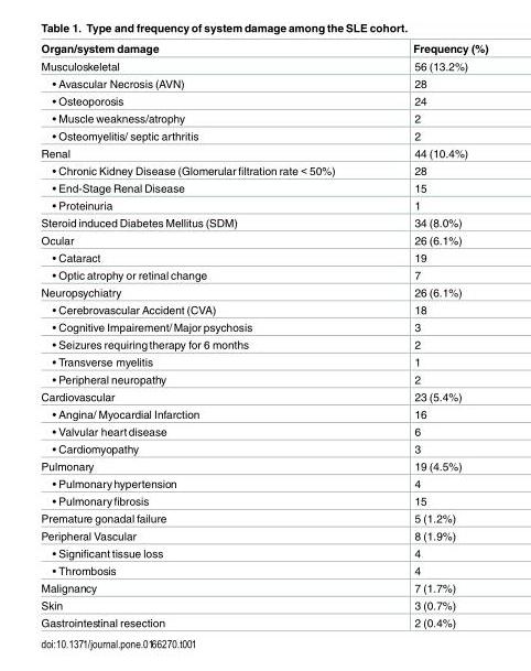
<table><thead><tr><td>Organ/system damage</td><td>Frequency (%)</td></tr></thead><tbody><tr><td>Musculoskeletal</td><td>56 (13.2%)</td></tr><tr><td>• Avascular Necrosis (AVN)</td><td>28</td></tr><tr><td>• Osteoporosis</td><td>24</td></tr><tr><td>• Muscle weakness/atrophy</td><td>2</td></tr><tr><td>• Osteomyelitis/ septic arthritis</td><td>2</td></tr><tr><td>Renal</td><td>44 (10.4%)</td></tr><tr><td>• Chronic Kidney Disease (Glomerular filtration rate &lt; 50%)</td><td>28</td></tr><tr><td>• End-Stage Renal Disease</td><td>15</td></tr><tr><td>• Proteinuria</td><td>1</td></tr><tr><td>Steroid induced Diabetes Mellitus (SDM)</td><td>34 (8.0%)</td></tr><tr><td>Ocular</td><td>26 (6.1%)</td></tr><tr><td>• Cataract</td><td>19</td></tr><tr><td>• Optic atrophy or retinal change</td><td>7</td></tr><tr><td>Neuropsychiatry</td><td>26 (6.1%)</td></tr><tr><td>• Cerebrovascular Accident (CVA)</td><td>18</td></tr><tr><td>• Cognitive Impairement/Major psychosis</td><td>3</td></tr><tr><td>• Seizures requiring therapy for 6 months</td><td>2</td></tr><tr><td>• Transverse myelitis</td><td>1</td></tr><tr><td>• Peripheral neuropathy</td><td>2</td></tr><tr><td>Cardiovascular</td><td>23 (5.4%)</td></tr><tr><td>• Angina/ Myocardial Infarction</td><td>16</td></tr><tr><td>• Valvular heart disease</td><td>6</td></tr><tr><td>• Cardiomyopathy</td><td>3</td></tr><tr><td>Pulmonary</td><td>19 (4.5%)</td></tr><tr><td>• Pulmonaryhypertension</td><td>4</td></tr><tr><td>• Pulmonaryfibrosis</td><td>15</td></tr><tr><td>Premature gonadal failure</td><td>5 (1.2%)</td></tr><tr><td>Peripheral Vascular</td><td>8 (1.9%)</td></tr><tr><td>• Significant tissue loss</td><td>4</td></tr><tr><td>• Thrombosis</td><td>4</td></tr><tr><td>Malignancy</td><td>7 (1.7%)</td></tr><tr><td>Skin</td><td>3 (0.7%)</td></tr><tr><td>Gastrointestinal resection</td><td>2 (0.4%)</td></tr></tbody></table>